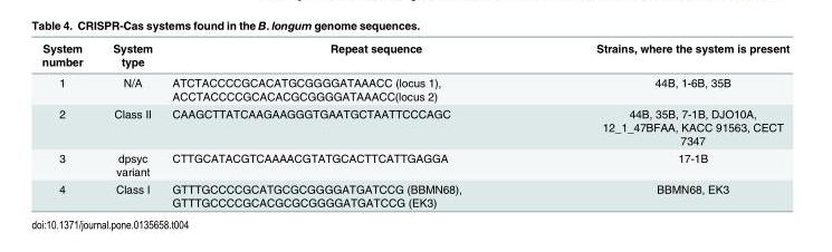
<table><thead><tr><td>System number</td><td>System type</td><td>Repeat sequence</td><td>Strains, where the system is present</td></tr></thead><tbody><tr><td>1</td><td>N/A</td><td>ATCTACCCCGCACATGCGGGGATAAACC (locus 1), ACCTACCCCGCACACGCGGGGATAAACC(locus 2)</td><td>44B, 1-6B, 35B</td></tr><tr><td>2</td><td>Class II</td><td>CAAGCTTATCAAGAAGGGTGAATGCTAATTCCCAGC</td><td>44B, 35B, 7-1B, DJO10A, 12_1_47BFAA, KACC 91563, CECT 7347</td></tr><tr><td>3</td><td>dpsyc variant</td><td>CTTGCATACGTCAAAACGTATGCACTTCATTGAGGA</td><td>17-1B</td></tr><tr><td>4</td><td>Class I</td><td>GTTTGCCCCGCATGCGCGGGGATGATCCG (BBMN68), GTTTGCCCCGCACGCGCGGGGATGATCCG (EK3)</td><td>BBMN68, EK3</td></tr></tbody></table>